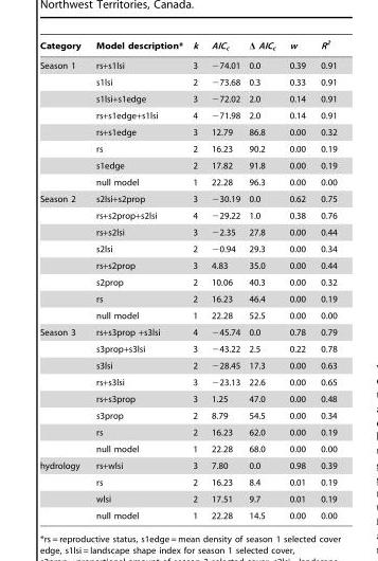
<table><thead><tr><td>Category</td><td>Model description*</td><td>k</td><td>AIC<sub>c</sub></td><td>Δ AIC<sub>c</sub></td><td>w</td><td>R<sup>2</sup></td></tr></thead><tbody><tr><td rowspan="8">Season 1</td><td>rs+s1lsi</td><td>3</td><td>−74.01</td><td>0.0</td><td>0.39</td><td>0.91</td></tr><tr><td>s1lsi</td><td>2</td><td>−73.68</td><td>0.3</td><td>0.33</td><td>0.91</td></tr><tr><td>s1lsi+s1edge</td><td>3</td><td>−72.02</td><td>2.0</td><td>0.14</td><td>0.91</td></tr><tr><td>rs+s1edge+s1lsi</td><td>4</td><td>−71.98</td><td>2.0</td><td>0.14</td><td>0.91</td></tr><tr><td>rs+s1edge</td><td>3</td><td>12.79</td><td>86.8</td><td>0.00</td><td>0.32</td></tr><tr><td>rs</td><td>2</td><td>16.23</td><td>90.2</td><td>0.00</td><td>0.19</td></tr><tr><td>s1edge</td><td>2</td><td>17.82</td><td>91.8</td><td>0.00</td><td>0.19</td></tr><tr><td>null model</td><td>1</td><td>22.28</td><td>96.3</td><td>0.00</td><td>0.00</td></tr><tr><td rowspan="8">Season 2</td><td>s2lsi+s2prop</td><td>3</td><td>−30.19</td><td>0.0</td><td>0.62</td><td>0.75</td></tr><tr><td>rs+s2prop+s2lsi</td><td>4</td><td>−29.22</td><td>1.0</td><td>0.38</td><td>0.76</td></tr><tr><td>rs+s2lsi</td><td>3</td><td>−2.35</td><td>27.8</td><td>0.00</td><td>0.44</td></tr><tr><td>s2lsi</td><td>2</td><td>−0.94</td><td>29.3</td><td>0.00</td><td>0.34</td></tr><tr><td>rs+s2prop</td><td>3</td><td>4.83</td><td>35.0</td><td>0.00</td><td>0.44</td></tr><tr><td>s2prop</td><td>2</td><td>10.06</td><td>40.3</td><td>0.00</td><td>0.32</td></tr><tr><td>rs</td><td>2</td><td>16.23</td><td>46.4</td><td>0.00</td><td>0.19</td></tr><tr><td>null model</td><td>1</td><td>22.28</td><td>52.5</td><td>0.00</td><td>0.00</td></tr><tr><td rowspan="8">Season 3</td><td>rs+s3prop +s3lsi</td><td>4</td><td>−45.74</td><td>0.0</td><td>0.78</td><td>0.79</td></tr><tr><td>s3prop+s3lsi</td><td>3</td><td>−43.22</td><td>2.5</td><td>0.22</td><td>0.78</td></tr><tr><td>s3lsi</td><td>2</td><td>−28.45</td><td>17.3</td><td>0.00</td><td>0.63</td></tr><tr><td>rs+s3lsi</td><td>3</td><td>−23.13</td><td>22.6</td><td>0.00</td><td>0.65</td></tr><tr><td>rs+s3prop</td><td>3</td><td>1.25</td><td>47.0</td><td>0.00</td><td>0.48</td></tr><tr><td>s3prop</td><td>2</td><td>8.79</td><td>54.5</td><td>0.00</td><td>0.34</td></tr><tr><td>rs</td><td>2</td><td>16.23</td><td>62.0</td><td>0.00</td><td>0.19</td></tr><tr><td>null model</td><td>1</td><td>22.28</td><td>68.0</td><td>0.00</td><td>0.00</td></tr><tr><td rowspan="4">hydrology</td><td>rs+wlsi</td><td>3</td><td>7.80</td><td>0.0</td><td>0.98</td><td>0.39</td></tr><tr><td>rs</td><td>2</td><td>16.23</td><td>8.4</td><td>0.01</td><td>0.19</td></tr><tr><td>wlsi</td><td>2</td><td>17.51</td><td>9.7</td><td>0.01</td><td>0.19</td></tr><tr><td>null model</td><td>1</td><td>22.28</td><td>14.5</td><td>0.00</td><td>0.00</td></tr></tbody></table>